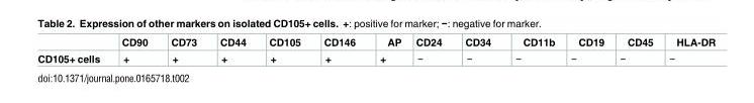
<table><thead><tr><td></td><td>CD90</td><td>CD73</td><td>CD44</td><td>CD105</td><td>CD146</td><td>AP</td><td>CD24</td><td>CD34</td><td>CD11b</td><td>CD19</td><td>CD45</td><td>HLA-DR</td></tr></thead><tbody><tr><td>CD105+ cells</td><td>+</td><td>+</td><td>+</td><td>+</td><td>+</td><td>+</td><td>−</td><td>−</td><td>−</td><td>−</td><td>−</td><td>−</td></tr></tbody></table>